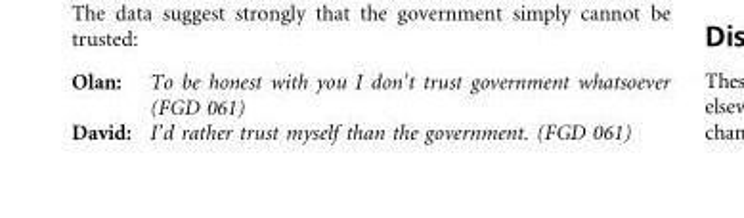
<table><tbody><tr><td>Olan:</td><td>To be honest with you I don’t trust government whatsoever (FGD 061)</td></tr><tr><td>David:</td><td>I’d rather trust myself than the government. (FGD 061)</td></tr></tbody></table>